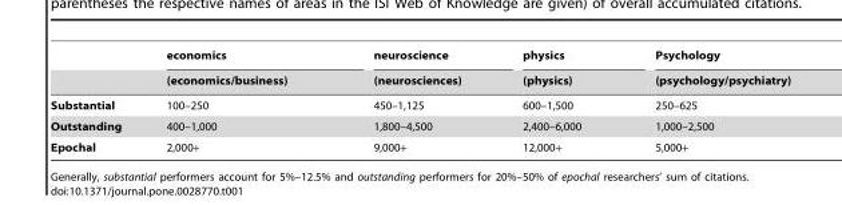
<table><thead><tr><td rowspan="2"></td><td rowspan="2">economics (economics/business)</td><td rowspan="2">neuroscience (neurosciences)</td><td rowspan="2">physics (physics)</td><td rowspan="2">Psychology (psychology/psychiatry)</td></tr><tr></tr></thead><tbody><tr><td>Substantial</td><td>100–250</td><td>450–1,125</td><td>600–1,500</td><td>250–625</td></tr><tr><td>Outstanding</td><td>400–1,000</td><td>1,800–4,500</td><td>2,400–6,000</td><td>1,000–2,500</td></tr><tr><td>Epochal</td><td>2,000+</td><td>9,000+</td><td>12,000+</td><td>5,000+</td></tr></tbody></table>